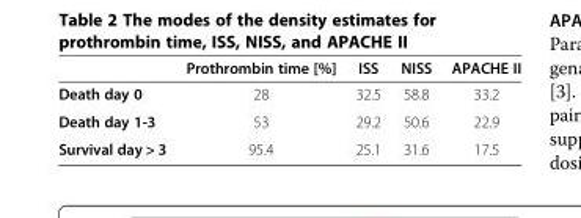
<table><thead><tr><td></td><td>Prothrombin time [%]</td><td>ISS</td><td>NISS</td><td>APACHE II</td></tr></thead><tbody><tr><td>Death day 0</td><td>28</td><td>32.5</td><td>58.8</td><td>33.2</td></tr><tr><td>Death day 1-3</td><td>53</td><td>29.2</td><td>50.6</td><td>22.9</td></tr><tr><td>Survival day &gt; 3</td><td>95.4</td><td>25.1</td><td>31.6</td><td>17.5</td></tr></tbody></table>